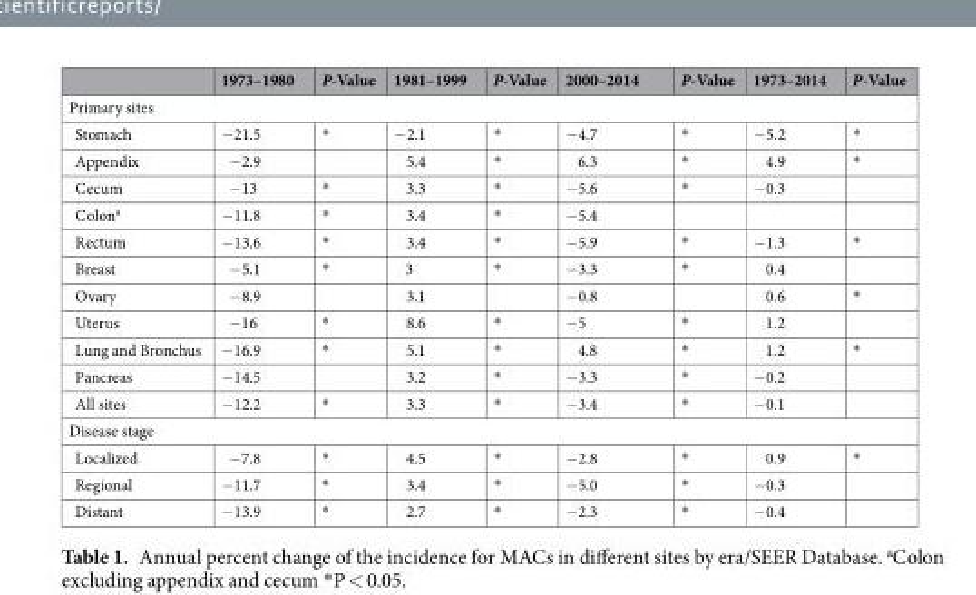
<table><thead><tr><td></td><td>1973–1980</td><td>P-Value</td><td>1981–1999</td><td>P-Value</td><td>2000–2014</td><td>P-Value</td><td>1973–2014</td><td>P-Value</td></tr></thead><tbody><tr><td colspan="9">Primary sites</td></tr><tr><td>Stomach</td><td>−21.5</td><td>*</td><td>−2.1</td><td>*</td><td>−4.7</td><td>*</td><td>−5.2</td><td>*</td></tr><tr><td>Appendix</td><td>−2.9</td><td></td><td>5.4</td><td>*</td><td>6.3</td><td>*</td><td>4.9</td><td>*</td></tr><tr><td>Cecum</td><td>−13</td><td>*</td><td>3.3</td><td>*</td><td>−5.6</td><td>*</td><td>−0.3</td><td></td></tr><tr><td>Colon<sup>a</sup></td><td>−11.8</td><td>*</td><td>3.4</td><td>*</td><td>−5.4</td><td></td><td></td><td></td></tr><tr><td>Rectum</td><td>−13.6</td><td>*</td><td>3.4</td><td>*</td><td>−5.9</td><td>*</td><td>−1.3</td><td>*</td></tr><tr><td>Breast</td><td>−5.1</td><td>*</td><td>3</td><td>*</td><td>−3.3</td><td>*</td><td>0.4</td><td></td></tr><tr><td>Ovary</td><td>−8.9</td><td></td><td>3.1</td><td></td><td>−0.8</td><td></td><td>0.6</td><td>*</td></tr><tr><td>Uterus</td><td>−16</td><td>*</td><td>8.6</td><td>*</td><td>−5</td><td>*</td><td>1.2</td><td></td></tr><tr><td>Lung and Bronchus</td><td>−16.9</td><td>*</td><td>5.1</td><td>*</td><td>4.8</td><td>*</td><td>1.2</td><td>*</td></tr><tr><td>Pancreas</td><td>−14.5</td><td></td><td>3.2</td><td>*</td><td>−3.3</td><td>*</td><td>−0.2</td><td></td></tr><tr><td>All sites</td><td>−12.2</td><td>*</td><td>3.3</td><td>*</td><td>−3.4</td><td>*</td><td>−0.1</td><td></td></tr><tr><td colspan="9">Disease stage</td></tr><tr><td>Localized</td><td>−7.8</td><td>*</td><td>4.5</td><td>*</td><td>−2.8</td><td>*</td><td>0.9</td><td>*</td></tr><tr><td>Regional</td><td>−11.7</td><td>*</td><td>3.4</td><td>*</td><td>−5.0</td><td>*</td><td>−0.3</td><td></td></tr><tr><td>Distant</td><td>−13.9</td><td>*</td><td>2.7</td><td>*</td><td>−2.3</td><td>*</td><td>−0.4</td><td></td></tr></tbody></table>